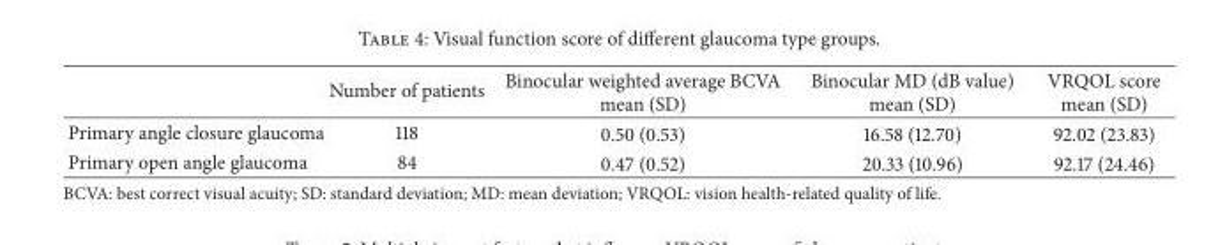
<table><thead><tr><td></td><td>Number of patients</td><td>Binocular weighted average BCVA mean (SD)</td><td>Binocular MD (dB value) mean (SD)</td><td>VRQOL score mean (SD)</td></tr></thead><tbody><tr><td>Primary angle closure glaucoma</td><td>118</td><td>0.50 (0.53)</td><td>16.58 (12.70)</td><td>92.02 (23.83)</td></tr><tr><td>Primary open angle glaucoma</td><td>84</td><td>0.47 (0.52)</td><td>20.33 (10.96)</td><td>92.17 (24.46)</td></tr></tbody></table>